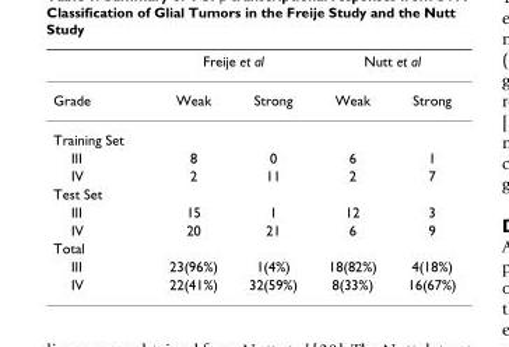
<table><thead><tr><td rowspan="2">Grade</td><td colspan="2">Freije et al</td><td colspan="2">Nutt et al</td></tr><tr><td>Weak</td><td>Strong</td><td>Weak</td><td>Strong</td></tr></thead><tbody><tr><td colspan="5">Training Set</td></tr><tr><td>III</td><td>8</td><td>0</td><td>6</td><td>1</td></tr><tr><td>IV</td><td>2</td><td>11</td><td>2</td><td>7</td></tr><tr><td colspan="5">Test Set</td></tr><tr><td>III</td><td>15</td><td>1</td><td>12</td><td>3</td></tr><tr><td>IV</td><td>20</td><td>21</td><td>6</td><td>9</td></tr><tr><td colspan="5">Total</td></tr><tr><td>III</td><td>23(96%)</td><td>1(4%)</td><td>18(82%)</td><td>4(18%)</td></tr><tr><td>IV</td><td>22(41%)</td><td>32(59%)</td><td>8(33%)</td><td>16(67%)</td></tr></tbody></table>